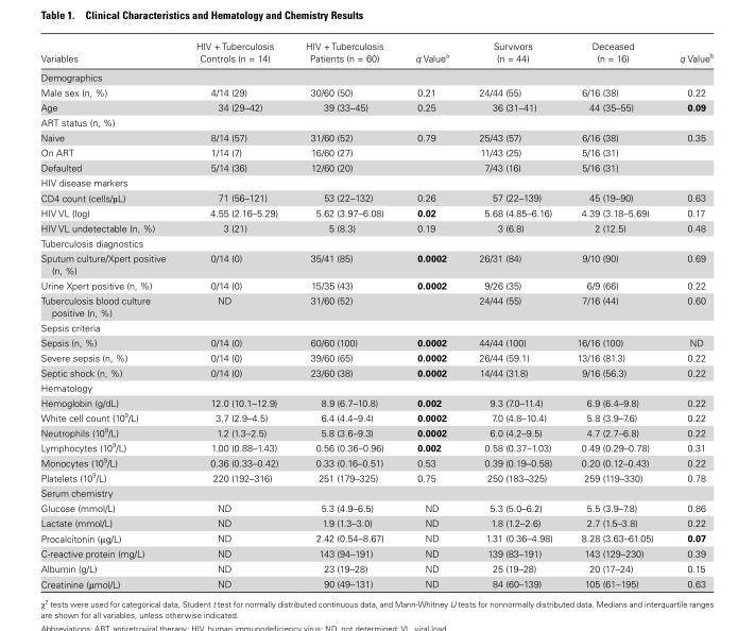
<table><thead><tr><td>Variables</td><td>HIV + Tuberculosis Controls (n = 14)</td><td>HIV + Tuberculosis Patients (n = 60)</td><td>q Value<sup>a</sup></td><td>Survivors (n = 44)</td><td>Deceased (n = 16)</td><td>q Value<sup>b</sup></td></tr></thead><tbody><tr><td colspan="7">Demographics</td></tr><tr><td>Male sex (n, %)</td><td>4/14 (29)</td><td>30/60 (50)</td><td>0.21</td><td>24/44 (55)</td><td>6/16 (38)</td><td>0.22</td></tr><tr><td>Age</td><td>34 (29–42)</td><td>39 (33–45)</td><td>0.25</td><td>36 (31–41)</td><td>44 (35–55)</td><td>0.09</td></tr><tr><td colspan="7">ART status (n, %)</td></tr><tr><td>Naive</td><td>8/14 (57)</td><td>31/60 (52)</td><td>0.79</td><td>25/43 (57)</td><td>6/16 (38)</td><td>0.35</td></tr><tr><td>On ART</td><td>1/14 (7)</td><td>16/60 (27)</td><td></td><td>11/43 (25)</td><td>5/16 (31)</td><td></td></tr><tr><td>Defaulted</td><td>5/14 (36)</td><td>12/60 (20)</td><td></td><td>7/43 (16)</td><td>5/16 (31)</td><td></td></tr><tr><td colspan="7">HIV disease markers</td></tr><tr><td>CD4 count (cells/µL)</td><td>71 (56–121)</td><td>53 (22–132)</td><td>0.26</td><td>57 (22–139)</td><td>45 (19–90)</td><td>0.63</td></tr><tr><td>HIV VL (log)</td><td>4.55 (2.16–5.29)</td><td>5.62 (3.97–6.08)</td><td>0.02</td><td>5.68 (4.85–6.16)</td><td>4.39 (3.18–5.69)</td><td>0.17</td></tr><tr><td>HIV VL undetectable (n, %)</td><td>3 (21)</td><td>5 (8.3)</td><td>0.19</td><td>3 (6.8)</td><td>2 (12.5)</td><td>0.48</td></tr><tr><td colspan="7">Tuberculosis diagnostics</td></tr><tr><td>Sputum culture/Xpert positive (n, %)</td><td>0/14 (0)</td><td>35/41 (85)</td><td>0.0002</td><td>26/31 (84)</td><td>9/10 (90)</td><td>0.69</td></tr><tr><td>Urine Xpert positive (n, %)</td><td>0/14 (0)</td><td>15/35 (43)</td><td>0.0002</td><td>9/26 (35)</td><td>6/9 (66)</td><td>0.22</td></tr><tr><td>Tuberculosis blood culture positive (n, %)</td><td>ND</td><td>31/60 (52)</td><td></td><td>24/44 (55)</td><td>7/16 (44)</td><td>0.60</td></tr><tr><td colspan="7">Sepsis criteria</td></tr><tr><td>Sepsis (n, %)</td><td>0/14 (0)</td><td>60/60 (100)</td><td>0.0002</td><td>44/44 (100)</td><td>16/16 (100)</td><td>ND</td></tr><tr><td>Severe sepsis (n, %)</td><td>0/14 (0)</td><td>39/60 (65)</td><td>0.0002</td><td>26/44 (59.1)</td><td>13/16 (81.3)</td><td>0.22</td></tr><tr><td>Septic shock (n, %)</td><td>0/14 (0)</td><td>23/60 (38)</td><td>0.0002</td><td>14/44 (31.8)</td><td>9/16 (56.3)</td><td>0.22</td></tr><tr><td colspan="7">Hematology</td></tr><tr><td>Hemoglobin (g/dL)</td><td>12.0 (10.1–12.9)</td><td>8.9 (6.7–10.8)</td><td>0.002</td><td>9.3 (7.0–11.4)</td><td>6.9 (6.4–9.8)</td><td>0.22</td></tr><tr><td>White cell count (10<sup>9</sup>/L)</td><td>3.7 (2.9–4.5)</td><td>6.4 (4.4–9.4)</td><td>0.0002</td><td>7.0 (4.8–10.4)</td><td>5.8 (3.9–7.6)</td><td>0.22</td></tr><tr><td>Neutrophils (10<sup>9</sup>/L)</td><td>1.2 (1.3–2.5)</td><td>5.8 (3.6–9.3)</td><td>0.0002</td><td>6.0 (4.2–9.5)</td><td>4.7 (2.7–6.8)</td><td>0.22</td></tr><tr><td>Lymphocytes (10<sup>9</sup>/L)</td><td>1.00 (0.88–1.43)</td><td>0.56 (0.36–0.96)</td><td>0.002</td><td>0.58 (0.37–1.03)</td><td>0.49 (0.29–0.78)</td><td>0.31</td></tr><tr><td>Monocytes (10<sup>9</sup>/L)</td><td>0.36 (0.33–0.42)</td><td>0.33 (0.16–0.51)</td><td>0.53</td><td>0.39 (0.19–0.58)</td><td>0.20 (0.12–0.43)</td><td>0.22</td></tr><tr><td>Platelets (10<sup>9</sup>/L)</td><td>220 (192–316)</td><td>251 (179–325)</td><td>0.75</td><td>250 (183–325)</td><td>259 (119–330)</td><td>0.78</td></tr><tr><td colspan="7">Serum chemistry</td></tr><tr><td>Glucose (mmol/L)</td><td>ND</td><td>5.3 (4.9–6.5)</td><td>ND</td><td>5.3 (5.0–6.2)</td><td>5.5 (3.9–7.8)</td><td>0.86</td></tr><tr><td>Lactate (mmol/L)</td><td>ND</td><td>1.9 (1.3–3.0)</td><td>ND</td><td>1.8 (1.2–2.6)</td><td>2.7 (1.5–3.8)</td><td>0.22</td></tr><tr><td>Procalcitonin (μg/L)</td><td>ND</td><td>2.42 (0.54–8.67)</td><td>ND</td><td>1.31 (0.36–4.98)</td><td>8.28 (3.63–61.05)</td><td>0.07</td></tr><tr><td>C-reactive protein (mg/L)</td><td>ND</td><td>143 (94–191)</td><td>ND</td><td>139 (83–191)</td><td>143 (129–230)</td><td>0.39</td></tr><tr><td>Albumin (g/L)</td><td>ND</td><td>23 (19–28)</td><td>ND</td><td>25 (19–28)</td><td>20 (17–24)</td><td>0.15</td></tr><tr><td>Creatinine (µmol/L)</td><td>ND</td><td>90 (49–131)</td><td>ND</td><td>84 (60–139)</td><td>105 (61–195)</td><td>0.63</td></tr></tbody></table>